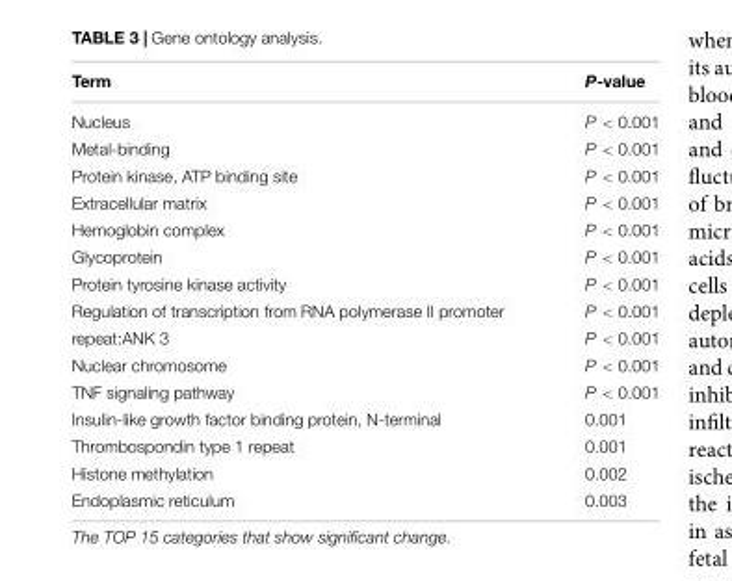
<table><thead><tr><td>Term</td><td>P-value</td></tr></thead><tbody><tr><td>Nucleus</td><td>P &lt; 0.001</td></tr><tr><td>Metal-binding</td><td>P &lt; 0.001</td></tr><tr><td>Protein kinase, ATP binding site</td><td>P &lt; 0.001</td></tr><tr><td>Extracellular matrix</td><td>P &lt; 0.001</td></tr><tr><td>Hemoglobin complex</td><td>P &lt; 0.001</td></tr><tr><td>Glycoprotein</td><td>P &lt; 0.001</td></tr><tr><td>Protein tyrosine kinase activity</td><td>P &lt; 0.001</td></tr><tr><td>Regulation of transcription from RNA polymerase II promoter</td><td>P &lt; 0.001</td></tr><tr><td>repeat:ANK 3</td><td>P &lt; 0.001</td></tr><tr><td>Nuclear chromosome</td><td>P &lt; 0.001</td></tr><tr><td>TNF signaling pathway</td><td>P &lt; 0.001</td></tr><tr><td>Insulin-like growth factor binding protein, N-terminal</td><td>0.001</td></tr><tr><td>Thrombospondin type 1 repeat</td><td>0.001</td></tr><tr><td>Histone methylation</td><td>0.002</td></tr><tr><td>Endoplasmic reticulum</td><td>0.003</td></tr></tbody></table>